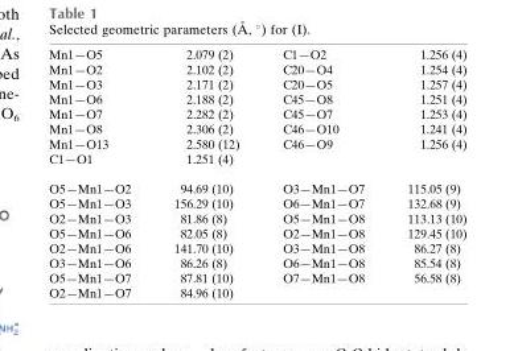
<table><tbody><tr><td>Mn1—O5</td><td>2.079 (2)</td><td>C1—O2</td><td>1.256 (4)</td></tr><tr><td>Mn1—O2</td><td>2.102 (2)</td><td>C20—O4</td><td>1.254 (4)</td></tr><tr><td>Mn1—O3</td><td>2.171 (2)</td><td>C20—O5</td><td>1.257 (4)</td></tr><tr><td>Mn1—O6</td><td>2.188 (2)</td><td>C45—O8</td><td>1.251 (4)</td></tr><tr><td>Mn1—O7</td><td>2.282 (2)</td><td>C45—O7</td><td>1.253 (4)</td></tr><tr><td>Mn1—O8</td><td>2.306 (2)</td><td>C46—O10</td><td>1.241 (4)</td></tr><tr><td>Mn1—O13</td><td>2.580 (12)</td><td>C46—O9</td><td>1.256 (4)</td></tr><tr><td>C1—O1</td><td>1.251 (4)</td><td></td><td></td></tr><tr><td>O5—Mn1—O2</td><td>94.69 (10)</td><td>O3—Mn1—O7</td><td>115.05 (9)</td></tr><tr><td>O5—Mn1—O3</td><td>156.29 (10)</td><td>O6—Mn1—O7</td><td>132.68 (9)</td></tr><tr><td>O2—Mn1—O3</td><td>81.86 (8)</td><td>O5—Mn1—O8</td><td>113.13 (10)</td></tr><tr><td>O5—Mn1—O6</td><td>82.05 (8)</td><td>O2—Mn1—O8</td><td>129.45 (10)</td></tr><tr><td>O2—Mn1—O6</td><td>141.70 (10)</td><td>O3—Mn1—O8</td><td>86.27 (8)</td></tr><tr><td>O3—Mn1—O6</td><td>86.26 (8)</td><td>O6—Mn1—O8</td><td>85.54 (8)</td></tr><tr><td>O5—Mn1—O7</td><td>87.81 (10)</td><td>O7—Mn1—O8</td><td>56.58 (8)</td></tr><tr><td>O2—Mn1—O7</td><td>84.96 (10)</td><td></td><td></td></tr></tbody></table>